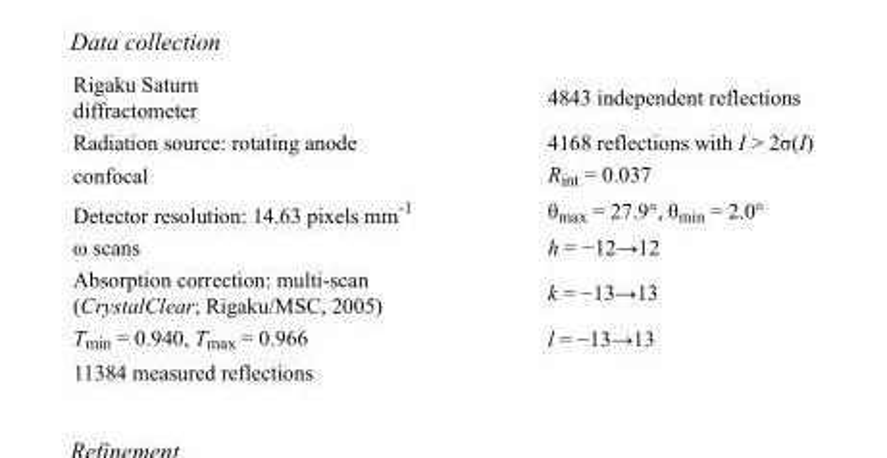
<table><tbody><tr><td>Rigaku Saturn diffractometer</td><td>4843 independent reflections</td></tr><tr><td>Radiation source: rotating anode</td><td>4168 reflections with I &gt; 2σ(I)</td></tr><tr><td>confocal</td><td>R<sub>int</sub> = 0.037</td></tr><tr><td>Detector resolution: 14.63 pixels mm<sup>-1</sup></td><td>θ<sub>max</sub> = 27.9°, θ<sub>min</sub> = 2.0°</td></tr><tr><td>ω scans</td><td>h = −12→12</td></tr><tr><td>Absorption correction: multi-scan (CrystalClear; Rigaku/MSC, 2005)</td><td>k = −13→13</td></tr><tr><td>T<sub>min</sub> = 0.940, T<sub>max</sub> = 0.966</td><td>l = −13→13</td></tr><tr><td>11384 measured reflections</td><td></td></tr></tbody></table>